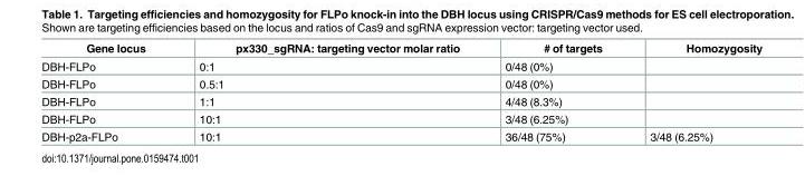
<table><thead><tr><td>Gene locus</td><td>px330_sgRNA: targeting vector molar ratio</td><td># of targets</td><td>Homozygosity</td></tr></thead><tbody><tr><td>DBH-FLPo</td><td>0:1</td><td>0/48 (0%)</td><td></td></tr><tr><td>DBH-FLPo</td><td>0.5:1</td><td>0/48 (0%)</td><td></td></tr><tr><td>DBH-FLPo</td><td>1:1</td><td>4/48 (8.3%)</td><td></td></tr><tr><td>DBH-FLPo</td><td>10:1</td><td>3/48 (6.25%)</td><td></td></tr><tr><td>DBH-p2a-FLPo</td><td>10:1</td><td>36/48 (75%)</td><td>3/48 (6.25%)</td></tr></tbody></table>